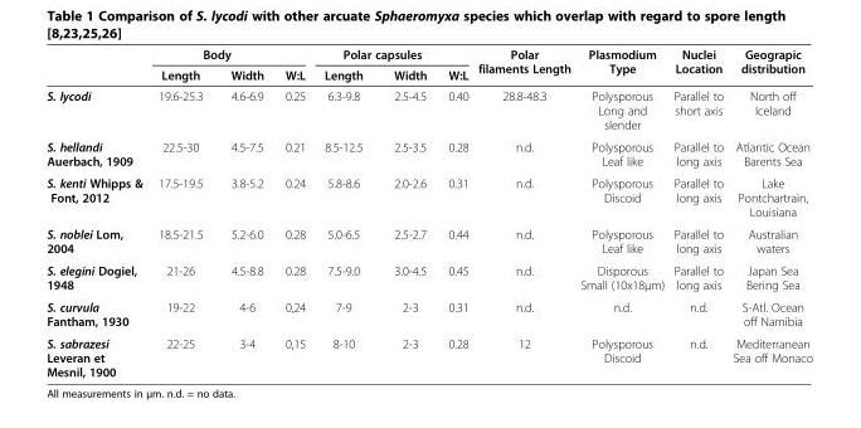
<table><thead><tr><td rowspan="2"></td><td colspan="3">Body</td><td colspan="3">Polar capsules</td><td rowspan="2">Polar filaments Length</td><td rowspan="2">Plasmodium Type</td><td rowspan="2">Nuclei Location</td><td rowspan="2">Geograpic distribution</td></tr><tr><td>Length</td><td>Width</td><td>W:L</td><td>Length</td><td>Width</td><td>W:L</td></tr></thead><tbody><tr><td>S. lycodi</td><td>19.6-25.3</td><td>4.6-6.9</td><td>0.25</td><td>6.3-9.8</td><td>2.5-4.5</td><td>0.40</td><td>28.8-48.3</td><td>Polysporous Long and slender</td><td>Parallel to short axis</td><td>North off Iceland</td></tr><tr><td>S. hellandi Auerbach, 1909</td><td>22.5-30</td><td>4.5-7.5</td><td>0.21</td><td>8.5-12.5</td><td>2.5-3.5</td><td>0.28</td><td>n.d.</td><td>Polysporous Leaf like</td><td>Parallel to long axis</td><td>Atlantic Ocean Barents Sea</td></tr><tr><td>S. kenti Whipps &amp; Font, 2012</td><td>17.5-19.5</td><td>3.8-5.2</td><td>0.24</td><td>5.8-8.6</td><td>2.0-2.6</td><td>0.31</td><td>n.d.</td><td>Polysporous Discoid</td><td>Parallel to long axis</td><td>Lake Pontchartrain, Louisiana</td></tr><tr><td>S. noblei Lom, 2004</td><td>18.5-21.5</td><td>5.2-6.0</td><td>0.28</td><td>5.0-6.5</td><td>2.5-2.7</td><td>0.44</td><td>n.d.</td><td>Polysporous Leaf like</td><td>Parallel to long axis</td><td>Australian waters</td></tr><tr><td>S. elegini Dogiel, 1948</td><td>21-26</td><td>4.5-8.8</td><td>0.28</td><td>7.5-9.0</td><td>3.0-4.5</td><td>0.45</td><td>n.d.</td><td>Disporous Small (10x18μm)</td><td>Parallel to long axis</td><td>Japan Sea Bering Sea</td></tr><tr><td>S. curvula Fantham, 1930</td><td>19-22</td><td>4-6</td><td>0,24</td><td>7-9</td><td>2-3</td><td>0.31</td><td>n.d.</td><td>n.d.</td><td>n.d.</td><td>S-Atl. Ocean off Namibia</td></tr><tr><td>S. sabrazesi Leveran et Mesnil, 1900</td><td>22-25</td><td>3-4</td><td>0,15</td><td>8-10</td><td>2-3</td><td>0.28</td><td>12</td><td>Polysporous Discoid</td><td>n.d.</td><td>Mediterranean Sea off Monaco</td></tr></tbody></table>